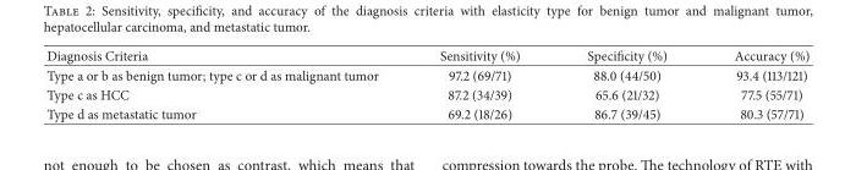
<table><thead><tr><td>Diagnosis Criteria</td><td>Sensitivity (%)</td><td>Specificity (%)</td><td>Accuracy (%)</td></tr></thead><tbody><tr><td>Type a or b as benign tumor; type c or d as malignant tumor</td><td>97.2 (69/71)</td><td>88.0 (44/50)</td><td>93.4 (113/121)</td></tr><tr><td>Type c as HCC</td><td>87.2 (34/39)</td><td>65.6 (21/32)</td><td>77.5 (55/71)</td></tr><tr><td>Type d as metastatic tumor</td><td>69.2 (18/26)</td><td>86.7 (39/45)</td><td>80.3 (57/71)</td></tr></tbody></table>